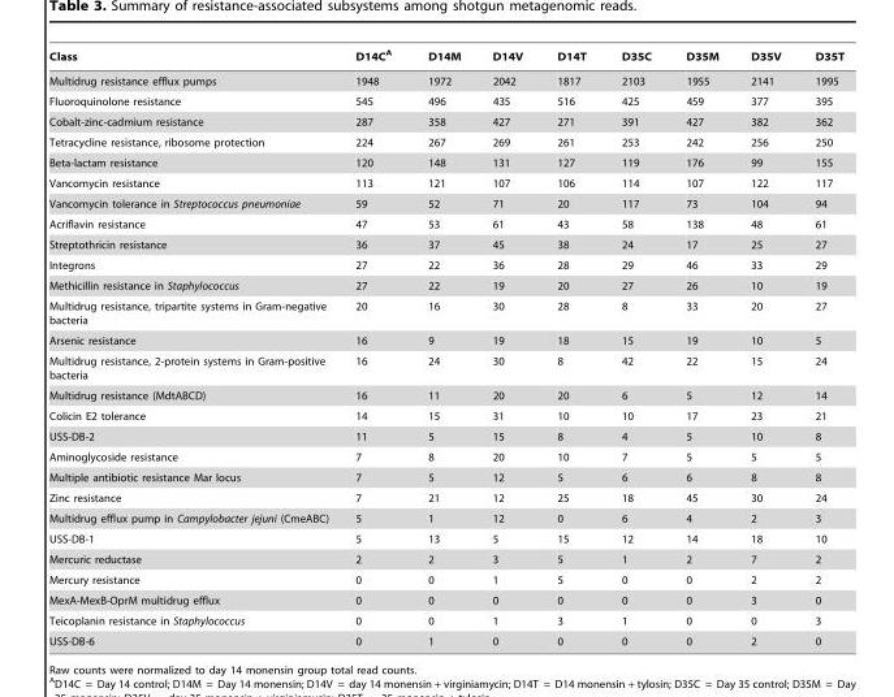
<table><thead><tr><td>Class</td><td>D14C<sup>A</sup></td><td>D14M</td><td>D14V</td><td>D14T</td><td>D35C</td><td>D35M</td><td>D35V</td><td>D35T</td></tr></thead><tbody><tr><td>Multidrug resistance efflux pumps</td><td>1948</td><td>1972</td><td>2042</td><td>1817</td><td>2103</td><td>1955</td><td>2141</td><td>1995</td></tr><tr><td>Fluoroquinolone resistance</td><td>545</td><td>496</td><td>435</td><td>516</td><td>425</td><td>459</td><td>377</td><td>395</td></tr><tr><td>Cobalt-zinc-cadmium resistance</td><td>287</td><td>358</td><td>427</td><td>271</td><td>391</td><td>427</td><td>382</td><td>362</td></tr><tr><td>Tetracycline resistance, ribosome protection</td><td>224</td><td>267</td><td>269</td><td>261</td><td>253</td><td>242</td><td>256</td><td>250</td></tr><tr><td>Beta-lactam resistance</td><td>120</td><td>148</td><td>131</td><td>127</td><td>119</td><td>176</td><td>99</td><td>155</td></tr><tr><td>Vancomycin resistance</td><td>113</td><td>121</td><td>107</td><td>106</td><td>114</td><td>107</td><td>122</td><td>117</td></tr><tr><td>Vancomycin tolerance in Streptococcus pneumoniae</td><td>59</td><td>52</td><td>71</td><td>20</td><td>117</td><td>73</td><td>104</td><td>94</td></tr><tr><td>Acriflavin resistance</td><td>47</td><td>53</td><td>61</td><td>43</td><td>58</td><td>138</td><td>48</td><td>61</td></tr><tr><td>Streptothricin resistance</td><td>36</td><td>37</td><td>45</td><td>38</td><td>24</td><td>17</td><td>25</td><td>27</td></tr><tr><td>Integrons</td><td>27</td><td>22</td><td>36</td><td>28</td><td>29</td><td>46</td><td>33</td><td>29</td></tr><tr><td>Methicillin resistance in Staphylococcus</td><td>27</td><td>22</td><td>19</td><td>20</td><td>27</td><td>26</td><td>10</td><td>19</td></tr><tr><td>Multidrug resistance, tripartite systems in Gram-negative bacteria</td><td>20</td><td>16</td><td>30</td><td>28</td><td>8</td><td>33</td><td>20</td><td>27</td></tr><tr><td>Arsenic resistance</td><td>16</td><td>9</td><td>19</td><td>18</td><td>15</td><td>19</td><td>10</td><td>5</td></tr><tr><td>Multidrug resistance, 2-protein systems in Gram-positive bacteria</td><td>16</td><td>24</td><td>30</td><td>8</td><td>42</td><td>22</td><td>15</td><td>24</td></tr><tr><td>Multidrug resistance (MdtABCD)</td><td>16</td><td>11</td><td>20</td><td>20</td><td>6</td><td>5</td><td>12</td><td>14</td></tr><tr><td>Colicin E2 tolerance</td><td>14</td><td>15</td><td>31</td><td>10</td><td>10</td><td>17</td><td>23</td><td>21</td></tr><tr><td>USS-DB-2</td><td>11</td><td>5</td><td>15</td><td>8</td><td>4</td><td>5</td><td>10</td><td>8</td></tr><tr><td>Aminoglycoside resistance</td><td>7</td><td>8</td><td>20</td><td>10</td><td>7</td><td>5</td><td>5</td><td>5</td></tr><tr><td>Multiple antibiotic resistance Mar locus</td><td>7</td><td>5</td><td>12</td><td>5</td><td>6</td><td>6</td><td>8</td><td>8</td></tr><tr><td>Zinc resistance</td><td>7</td><td>21</td><td>12</td><td>25</td><td>18</td><td>45</td><td>30</td><td>24</td></tr><tr><td>Multidrug efflux pump in Campylobacter jejuni (CmeABC)</td><td>5</td><td>1</td><td>12</td><td>0</td><td>6</td><td>4</td><td>2</td><td>3</td></tr><tr><td>USS-DB-1</td><td>5</td><td>13</td><td>5</td><td>15</td><td>12</td><td>14</td><td>18</td><td>10</td></tr><tr><td>Mercuric reductase</td><td>2</td><td>2</td><td>3</td><td>5</td><td>1</td><td>2</td><td>7</td><td>2</td></tr><tr><td>Mercury resistance</td><td>0</td><td>0</td><td>1</td><td>5</td><td>0</td><td>0</td><td>2</td><td>2</td></tr><tr><td>MexA-MexB-OprM multidrug efflux</td><td>0</td><td>0</td><td>0</td><td>0</td><td>0</td><td>0</td><td>3</td><td>0</td></tr><tr><td>Teicoplanin resistance in Staphylococcus</td><td>0</td><td>0</td><td>1</td><td>3</td><td>1</td><td>0</td><td>0</td><td>3</td></tr><tr><td>USS-DB-6</td><td>0</td><td>1</td><td>0</td><td>0</td><td>0</td><td>0</td><td>2</td><td>0</td></tr></tbody></table>